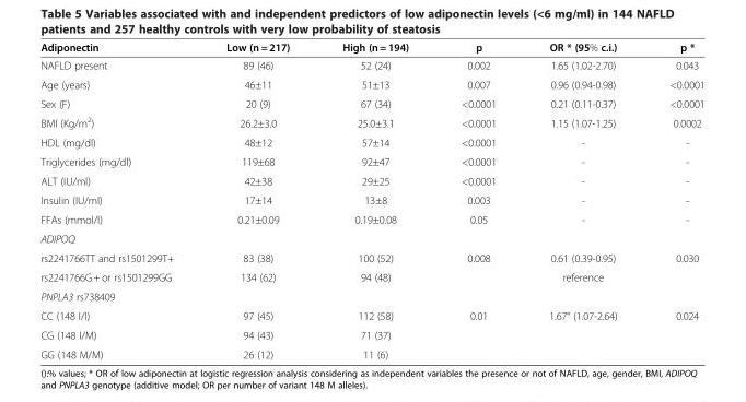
<table><thead><tr><td>Adiponectin</td><td>Low (n = 217)</td><td>High (n = 194)</td><td>p</td><td>OR * (95% c.i.)</td><td>p *</td></tr></thead><tbody><tr><td>NAFLD present</td><td>89 (46)</td><td>52 (24)</td><td>0.002</td><td>1.65 (1.02-2.70)</td><td>0.043</td></tr><tr><td>Age (years)</td><td>46±11</td><td>51±13</td><td>0.007</td><td>0.96 (0.94-0.98)</td><td>&lt;0.0001</td></tr><tr><td>Sex (F)</td><td>20 (9)</td><td>67 (34)</td><td>&lt;0.0001</td><td>0.21 (0.11-0.37)</td><td>&lt;0.0001</td></tr><tr><td>BMI (Kg/m<sup>2</sup>)</td><td>26.2±3.0</td><td>25.0±3.1</td><td>&lt;0.0001</td><td>1.15 (1.07-1.25)</td><td>0.0002</td></tr><tr><td>HDL (mg/dl)</td><td>48±12</td><td>57±14</td><td>&lt;0.0001</td><td>-</td><td>-</td></tr><tr><td>Triglycerides (mg/dl)</td><td>119±68</td><td>92±47</td><td>&lt;0.0001</td><td>-</td><td>-</td></tr><tr><td>ALT (IU/ml)</td><td>42±38</td><td>29±25</td><td>&lt;0.0001</td><td>-</td><td>-</td></tr><tr><td>Insulin (IU/ml)</td><td>17±14</td><td>13±8</td><td>0.003</td><td>-</td><td>-</td></tr><tr><td>FFAs (mmol/l)</td><td>0.21±0.09</td><td>0.19±0.08</td><td>0.05</td><td>-</td><td>-</td></tr><tr><td colspan="6">ADIPOQ</td></tr><tr><td>rs2241766TT and rs1501299T+</td><td>83 (38)</td><td>100 (52)</td><td>0.008</td><td>0.61 (0.39-0.95)</td><td>0.030</td></tr><tr><td>rs2241766G + or rs1501299GG</td><td>134 (62)</td><td>94 (48)</td><td></td><td>reference</td><td></td></tr><tr><td colspan="6">PNPLA3 rs738409</td></tr><tr><td>CC (148 I/I)</td><td>97 (45)</td><td>112 (58)</td><td>0.01</td><td>1.67° (1.07-2.64)</td><td>0.024</td></tr><tr><td>CG (148 I/M)</td><td>94 (43)</td><td>71 (37)</td><td></td><td></td><td></td></tr><tr><td>GG (148 M/M)</td><td>26 (12)</td><td>11 (6)</td><td></td><td></td><td></td></tr></tbody></table>